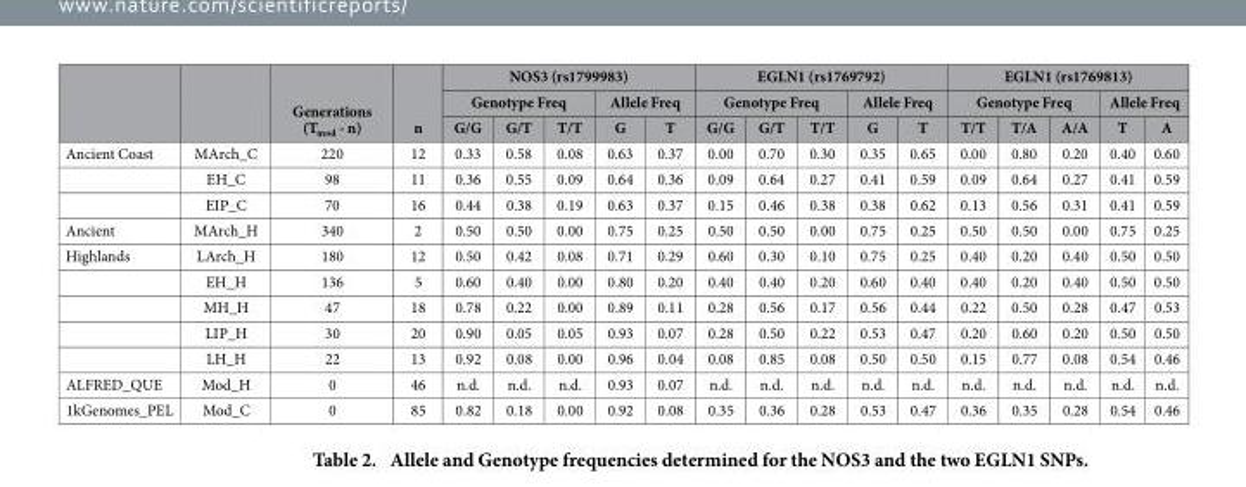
<table><thead><tr><td rowspan="3"></td><td rowspan="3"></td><td rowspan="3">Generations (T<sub>mod</sub> - n)</td><td rowspan="3">n</td><td colspan="5">NOS3 (rs1799983)</td><td colspan="5">EGLN1 (rs1769792)</td><td colspan="5">EGLN1 (rs1769813)</td></tr><tr><td colspan="3">Genotype Freq</td><td colspan="2">Allele Freq</td><td colspan="3">Genotype Freq</td><td colspan="2">Allele Freq</td><td colspan="3">Genotype Freq</td><td colspan="2">Allele Freq</td></tr><tr><td>G/G</td><td>G/T</td><td>T/T</td><td>G</td><td>T</td><td>G/G</td><td>G/T</td><td>T/T</td><td>G</td><td>T</td><td>T/T</td><td>T/A</td><td>A/A</td><td>T</td><td>A</td></tr></thead><tbody><tr><td rowspan="3">Ancient Coast</td><td>MArch_C</td><td>220</td><td>12</td><td>0.33</td><td>0.58</td><td>0.08</td><td>0.63</td><td>0.37</td><td>0.00</td><td>0.70</td><td>0.30</td><td>0.35</td><td>0.65</td><td>0.00</td><td>0.80</td><td>0.20</td><td>0.40</td><td>0.60</td></tr><tr><td>EH_C</td><td>98</td><td>11</td><td>0.36</td><td>0.55</td><td>0.09</td><td>0.64</td><td>0.36</td><td>0.09</td><td>0.64</td><td>0.27</td><td>0.41</td><td>0.59</td><td>0.09</td><td>0.64</td><td>0.27</td><td>0.41</td><td>0.59</td></tr><tr><td>EIP_C</td><td>70</td><td>16</td><td>0.44</td><td>0.38</td><td>0.19</td><td>0.63</td><td>0.37</td><td>0.15</td><td>0.46</td><td>0.38</td><td>0.38</td><td>0.62</td><td>0.13</td><td>0.56</td><td>0.31</td><td>0.41</td><td>0.59</td></tr><tr><td>Ancient</td><td>MArch_H</td><td>340</td><td>2</td><td>0.50</td><td>0.50</td><td>0.00</td><td>0.75</td><td>0.25</td><td>0.50</td><td>0.50</td><td>0.00</td><td>0.75</td><td>0.25</td><td>0.50</td><td>0.50</td><td>0.00</td><td>0.75</td><td>0.25</td></tr><tr><td rowspan="5">Highlands</td><td>LArch_H</td><td>180</td><td>12</td><td>0.50</td><td>0.42</td><td>0.08</td><td>0.71</td><td>0.29</td><td>0.60</td><td>0.30</td><td>0.10</td><td>0.75</td><td>0.25</td><td>0.40</td><td>0.20</td><td>0.40</td><td>0.50</td><td>0.50</td></tr><tr><td>EH_H</td><td>136</td><td>5</td><td>0.60</td><td>0.40</td><td>0.00</td><td>0.80</td><td>0.20</td><td>0.40</td><td>0.40</td><td>0.20</td><td>0.60</td><td>0.40</td><td>0.40</td><td>0.20</td><td>0.40</td><td>0.50</td><td>0.50</td></tr><tr><td>MH_H</td><td>47</td><td>18</td><td>0.78</td><td>0.22</td><td>0.00</td><td>0.89</td><td>0.11</td><td>0.28</td><td>0.56</td><td>0.17</td><td>0.56</td><td>0.44</td><td>0.22</td><td>0.50</td><td>0.28</td><td>0.47</td><td>0.53</td></tr><tr><td>LIP_H</td><td>30</td><td>20</td><td>0.90</td><td>0.05</td><td>0.05</td><td>0.93</td><td>0.07</td><td>0.28</td><td>0.50</td><td>0.22</td><td>0.53</td><td>0.47</td><td>0.20</td><td>0.60</td><td>0.20</td><td>0.50</td><td>0.50</td></tr><tr><td>LH_H</td><td>22</td><td>13</td><td>0.92</td><td>0.08</td><td>0.00</td><td>0.96</td><td>0.04</td><td>0.08</td><td>0.85</td><td>0.08</td><td>0.50</td><td>0.50</td><td>0.15</td><td>0.77</td><td>0.08</td><td>0.54</td><td>0.46</td></tr><tr><td>ALFRED_QUE</td><td>Mod_H</td><td>0</td><td>46</td><td>n.d.</td><td>n.d.</td><td>n.d.</td><td>0.93</td><td>0.07</td><td>n.d.</td><td>n.d.</td><td>n.d.</td><td>n.d.</td><td>n.d.</td><td>n.d.</td><td>n.d.</td><td>n.d.</td><td>n.d.</td><td>n.d.</td></tr><tr><td>1kGenomes_PEL</td><td>Mod_C</td><td>0</td><td>85</td><td>0.82</td><td>0.18</td><td>0.00</td><td>0.92</td><td>0.08</td><td>0.35</td><td>0.36</td><td>0.28</td><td>0.53</td><td>0.47</td><td>0.36</td><td>0.35</td><td>0.28</td><td>0.54</td><td>0.46</td></tr></tbody></table>